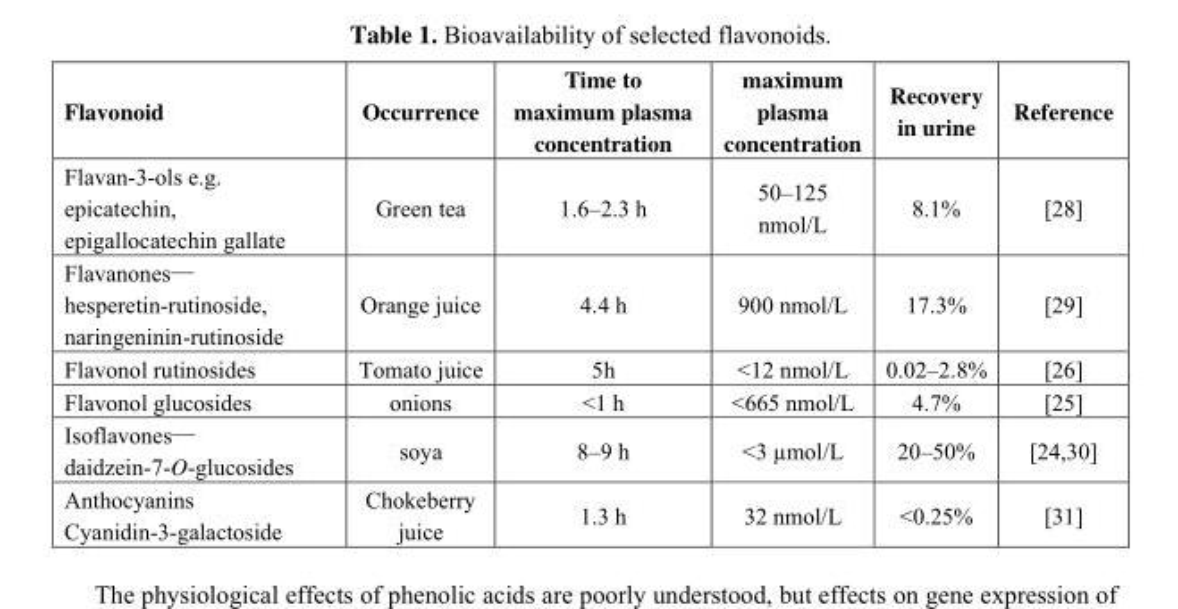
<table><thead><tr><td>Flavonoid</td><td>Occurrence</td><td>Time to maximum plasma concentration</td><td>maximum plasma concentration</td><td>Recovery in urine</td><td>Reference</td></tr></thead><tbody><tr><td>Flavan-3-ols e.g. epicatechin, epigallocatechin gallate</td><td>Green tea</td><td>1.6–2.3 h</td><td>50–125 nmol/L</td><td>8.1%</td><td>[28]</td></tr><tr><td>Flavanones— hesperetin-rutinoside, naringeninin-rutinoside</td><td>Orange juice</td><td>4.4 h</td><td>900 nmol/L</td><td>17.3%</td><td>[29]</td></tr><tr><td>Flavonol rutinosides</td><td>Tomato juice</td><td>5h</td><td>&lt;12 nmol/L</td><td>0.02–2.8%</td><td>[26]</td></tr><tr><td>Flavonol glucosides</td><td>onions</td><td>&lt;1 h</td><td>&lt;665 nmol/L</td><td>4.7%</td><td>[25]</td></tr><tr><td>Isoflavones— daidzein-7-O-glucosides</td><td>soya</td><td>8–9 h</td><td>&lt;3 µmol/L</td><td>20–50%</td><td>[24,30]</td></tr><tr><td>Anthocyanins Cyanidin-3-galactoside</td><td>Chokeberry juice</td><td>1.3 h</td><td>32 nmol/L</td><td>&lt;0.25%</td><td>[31]</td></tr></tbody></table>